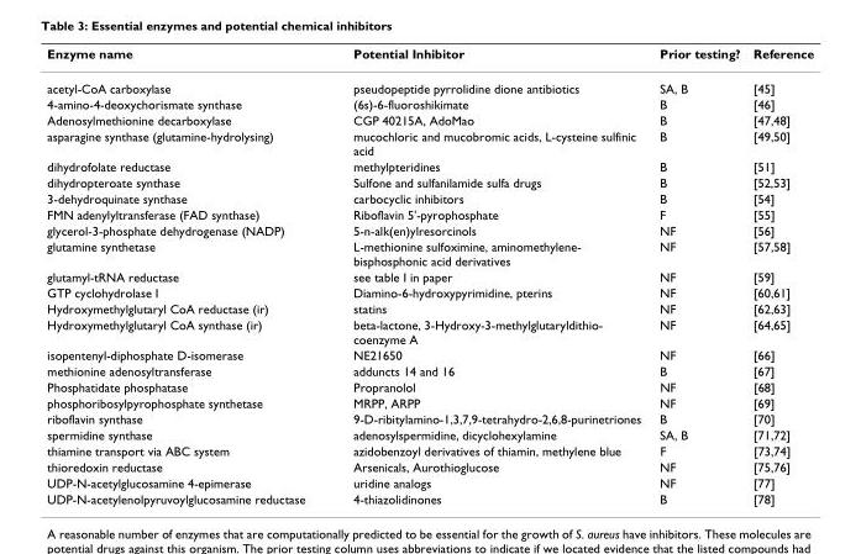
<table><thead><tr><td>Enzyme name</td><td>Potential Inhibitor</td><td>Prior testing?</td><td>Reference</td></tr></thead><tbody><tr><td>acetyl-CoA carboxylase</td><td>pseudopeptide pyrrolidine dione antibiotics</td><td>SA, B</td><td>[45]</td></tr><tr><td>4-amino-4-deoxychorismate synthase</td><td>(6s)-6-fluoroshikimate</td><td>B</td><td>[46]</td></tr><tr><td>Adenosylmethionine decarboxylase</td><td>CGP 40215A, AdoMao</td><td>B</td><td>[47,48]</td></tr><tr><td>asparagine synthase (glutamine-hydrolysing)</td><td>mucochloric and mucobromic acids, L-cysteine sulfinic acid</td><td>B</td><td>[49,50]</td></tr><tr><td>dihydrofolate reductase</td><td>methylpteridines</td><td>B</td><td>[51]</td></tr><tr><td>dihydropteroate synthase</td><td>Sulfone and sulfanilamide sulfa drugs</td><td>B</td><td>[52,53]</td></tr><tr><td>3-dehydroquinate synthase</td><td>carbocyclic inhibitors</td><td>B</td><td>[54]</td></tr><tr><td>FMN adenylyltransferase (FAD synthase)</td><td>Riboflavin 5&#x27;-pyrophosphate</td><td>F</td><td>[55]</td></tr><tr><td>glycerol-3-phosphate dehydrogenase (NADP)</td><td>5-n-alk(en)ylresorcinols</td><td>NF</td><td>[56]</td></tr><tr><td>glutamine synthetase</td><td>L-methionine sulfoximine, aminomethylene- bisphosphonic acid derivatives</td><td>NF</td><td>[57,58]</td></tr><tr><td>glutamyl-tRNA reductase</td><td>see table I in paper</td><td>NF</td><td>[59]</td></tr><tr><td>GTP cyclohydrolase I</td><td>Diamino-6-hydroxypyrimidine, pterins</td><td>NF</td><td>[60,61]</td></tr><tr><td>Hydroxymethylglutaryl CoA reductase (ir)</td><td>statins</td><td>NF</td><td>[62,63]</td></tr><tr><td>Hydroxymethylglutaryl CoA synthase (ir)</td><td>beta-lactone, 3-Hydroxy-3-methylglutaryldithio- coenzyme A</td><td>NF</td><td>[64,65]</td></tr><tr><td>isopentenyl-diphosphate D-isomerase</td><td>NE21650</td><td>NF</td><td>[66]</td></tr><tr><td>methionine adenosyltransferase</td><td>adduncts 14 and 16</td><td>B</td><td>[67]</td></tr><tr><td>Phosphatidate phosphatase</td><td>Propranolol</td><td>NF</td><td>[68]</td></tr><tr><td>phosphoribosylpyrophosphate synthetase</td><td>MRPP, ARPP</td><td>NF</td><td>[69]</td></tr><tr><td>riboflavin synthase</td><td>9-D-ribitylamino-1,3,7,9-tetrahydro-2,6,8-purinetriones</td><td>B</td><td>[70]</td></tr><tr><td>spermidine synthase</td><td>adenosylspermidine, dicyclohexylamine</td><td>SA, B</td><td>[71,72]</td></tr><tr><td>thiamine transport via ABC system</td><td>azidobenzoyl derivatives of thiamin, methylene blue</td><td>F</td><td>[73,74]</td></tr><tr><td>thioredoxin reductase</td><td>Arsenicals, Aurothioglucose</td><td>NF</td><td>[75,76]</td></tr><tr><td>UDP-N-acetylglucosamine 4-epimerase</td><td>uridine analogs</td><td>NF</td><td>[77]</td></tr><tr><td>UDP-N-acetylenolpyruvoylglucosamine reductase</td><td>4-thiazolidinones</td><td>B</td><td>[78]</td></tr></tbody></table>